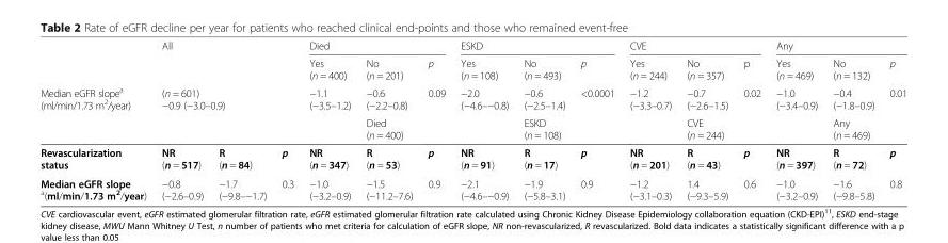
<table><thead><tr><td rowspan="5">Median eGFR slopea (ml/min/1.73 m2/year) Revascularization status</td><td rowspan="4" colspan="3">All (n = 601) −0.9 (−3.0–0.9)</td><td colspan="3">Died</td><td colspan="3">ESKD</td><td colspan="3">CVE</td><td colspan="3">Any</td></tr><tr><td rowspan="4">Yes (n = 400) −1.1 (−3.5–1.2) NR (n = 347)</td><td rowspan="4">No (n = 201) −0.6 (−2.2–0.8) Died (n = 400) R (n = 53)</td><td rowspan="4">p 0.09 p</td><td rowspan="4">Yes (n = 108) −2.0 (−4.6–−0.8) NR (n = 91)</td><td rowspan="4">No (n = 493) −0.6 (−2.5–1.4) ESKD (n = 108) R (n = 17)</td><td rowspan="4">p &lt;0.0001 p</td><td rowspan="4">Yes (n = 244) −1.2 (−3.3–0.7) NR (n = 201)</td><td rowspan="4">No (n = 357) −0.7 (−2.6–1.5) CVE (n = 244) R (n = 43)</td><td rowspan="4">p 0.02 p</td><td rowspan="4">Yes (n = 469) −1.0 (−3.4–0.9) NR (n = 397)</td><td rowspan="4">No (n = 132) −0.4 (−1.8–0.9) Any (n = 469) R (n = 72)</td><td rowspan="4">p 0.01 p</td></tr><tr></tr><tr></tr><tr><td>NR (n = 517)</td><td>R (n = 84)</td><td>p</td></tr></thead><tbody><tr><td>Median eGFR slope a(ml/min/1.73 m2/year)</td><td>−0.8 (−2.6–0.9)</td><td>−1.7 (−9.8–−1.7)</td><td>0.3</td><td>−1.0 (−3.2–0.9)</td><td>−1.5 (−11.2–7.6)</td><td>0.9</td><td>−2.1 (−4.6–−0.9)</td><td>−1.9 (−5.8–3.1)</td><td>0.9</td><td>−1.2 (−3.1–0.3)</td><td>1.4 (−9.3–5.9)</td><td>0.6</td><td>−1.0 (−3.2–0.9)</td><td>−1.6 (−9.8–5.8)</td><td>0.8</td></tr></tbody></table>